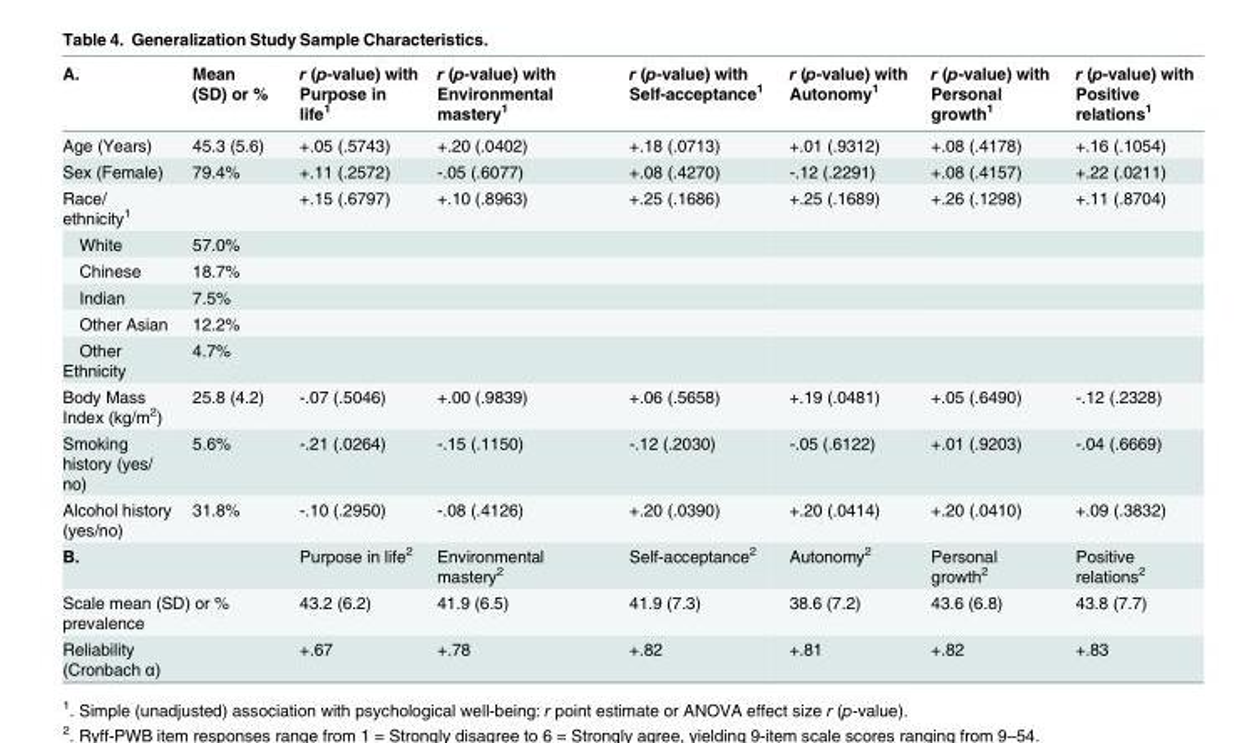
<table><thead><tr><td>A.</td><td>Mean (SD) or %</td><td>r (p-value) with Purpose in life<sup>1</sup></td><td>r (p-value) with Environmental mastery<sup>1</sup></td><td>r (p-value) with Self-acceptance<sup>1</sup></td><td>r (p-value) with Autonomy<sup>1</sup></td><td>r (p-value) with Personal growth<sup>1</sup></td><td>r (p-value) with Positive relations<sup>1</sup></td></tr></thead><tbody><tr><td>Age (Years)</td><td>45.3 (5.6)</td><td>+.05 (.5743)</td><td>+.20 (.0402)</td><td>+.18 (.0713)</td><td>+.01 (.9312)</td><td>+.08 (.4178)</td><td>+.16 (.1054)</td></tr><tr><td>Sex (Female)</td><td>79.4%</td><td>+.11 (.2572)</td><td>-.05 (.6077)</td><td>+.08 (.4270)</td><td>-.12 (.2291)</td><td>+.08 (.4157)</td><td>+.22 (.0211)</td></tr><tr><td>Race/ ethnicity<sup>1</sup></td><td></td><td>+.15 (.6797)</td><td>+.10 (.8963)</td><td>+.25 (.1686)</td><td>+.25 (.1689)</td><td>+.26 (.1298)</td><td>+.11 (.8704)</td></tr><tr><td>White</td><td>57.0%</td><td></td><td></td><td></td><td></td><td></td><td></td></tr><tr><td>Chinese</td><td>18.7%</td><td></td><td></td><td></td><td></td><td></td><td></td></tr><tr><td>Indian</td><td>7.5%</td><td></td><td></td><td></td><td></td><td></td><td></td></tr><tr><td>Other Asian</td><td>12.2%</td><td></td><td></td><td></td><td></td><td></td><td></td></tr><tr><td>Other Ethnicity</td><td>4.7%</td><td></td><td></td><td></td><td></td><td></td><td></td></tr><tr><td>Body Mass Index (kg/m<sup>2</sup>)</td><td>25.8 (4.2)</td><td>-.07 (.5046)</td><td>+.00 (.9839)</td><td>+.06 (.5658)</td><td>+.19 (.0481)</td><td>+.05 (.6490)</td><td>-.12 (.2328)</td></tr><tr><td>Smoking history (yes/ no)</td><td>5.6%</td><td>-.21 (.0264)</td><td>-.15 (.1150)</td><td>-.12 (.2030)</td><td>-.05 (.6122)</td><td>+.01 (.9203)</td><td>-.04 (.6669)</td></tr><tr><td>Alcohol history (yes/no)</td><td>31.8%</td><td>-.10 (.2950)</td><td>-.08 (.4126)</td><td>+.20 (.0390)</td><td>+.20 (.0414)</td><td>+.20 (.0410)</td><td>+.09 (.3832)</td></tr><tr><td colspan="2">B.</td><td>Purpose in life<sup>2</sup></td><td>Environmental mastery<sup>2</sup></td><td>Self-acceptance<sup>2</sup></td><td>Autonomy<sup>2</sup></td><td>Personal growth<sup>2</sup></td><td>Positive relations<sup>2</sup></td></tr><tr><td colspan="2">Scale mean (SD) or % prevalence</td><td>43.2 (6.2)</td><td>41.9 (6.5)</td><td>41.9 (7.3)</td><td>38.6 (7.2)</td><td>43.6 (6.8)</td><td>43.8 (7.7)</td></tr><tr><td>Reliability (Cronbach α)</td><td></td><td>+.67</td><td>+.78</td><td>+.82</td><td>+.81</td><td>+.82</td><td>+.83</td></tr></tbody></table>